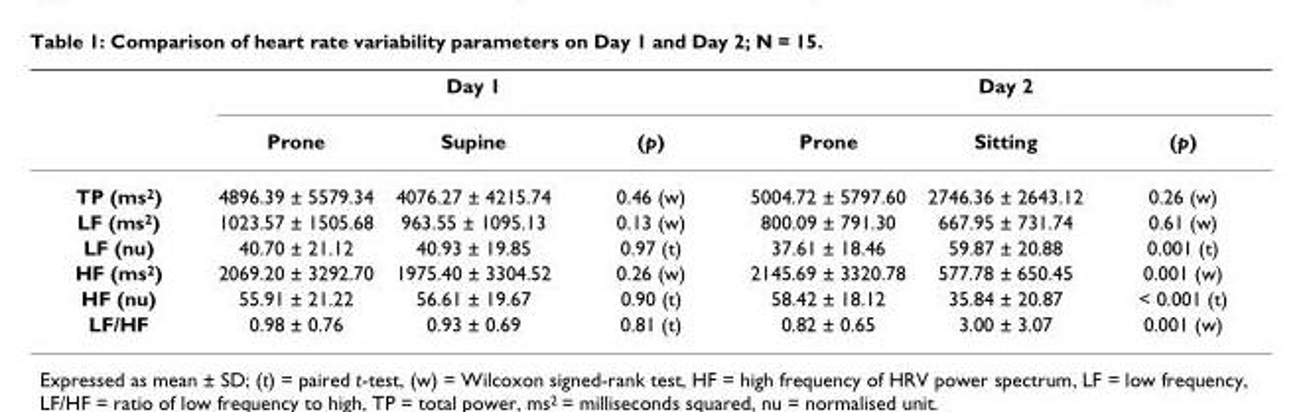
<table><thead><tr><td rowspan="2"></td><td colspan="3">Day 1</td><td colspan="3">Day 2</td></tr><tr><td>Prone</td><td>Supine</td><td>(p)</td><td>Prone</td><td>Sitting</td><td>(p)</td></tr></thead><tbody><tr><td>TP (ms<sup>2</sup>)</td><td>4896.39 ± 5579.34</td><td>4076.27 ± 4215.74</td><td>0.46 (w)</td><td>5004.72 ± 5797.60</td><td>2746.36 ± 2643.12</td><td>0.26 (w)</td></tr><tr><td>LF (ms<sup>2</sup>)</td><td>1023.57 ± 1505.68</td><td>963.55 ± 1095.13</td><td>0.13 (w)</td><td>800.09 ± 791.30</td><td>667.95 ± 731.74</td><td>0.61 (w)</td></tr><tr><td>LF (nu)</td><td>40.70 ± 21.12</td><td>40.93 ± 19.85</td><td>0.97 (t)</td><td>37.61 ± 18.46</td><td>59.87 ± 20.88</td><td>0.001 (t)</td></tr><tr><td>HF (ms<sup>2</sup>)</td><td>2069.20 ± 3292.70</td><td>1975.40 ± 3304.52</td><td>0.26 (w)</td><td>2145.69 ± 3320.78</td><td>577.78 ± 650.45</td><td>0.001 (w)</td></tr><tr><td>HF (nu)</td><td>55.91 ± 21.22</td><td>56.61 ± 19.67</td><td>0.90 (t)</td><td>58.42 ± 18.12</td><td>35.84 ± 20.87</td><td>&lt; 0.001 (t)</td></tr><tr><td>LF/HF</td><td>0.98 ± 0.76</td><td>0.93 ± 0.69</td><td>0.81 (t)</td><td>0.82 ± 0.65</td><td>3.00 ± 3.07</td><td>0.001 (w)</td></tr></tbody></table>